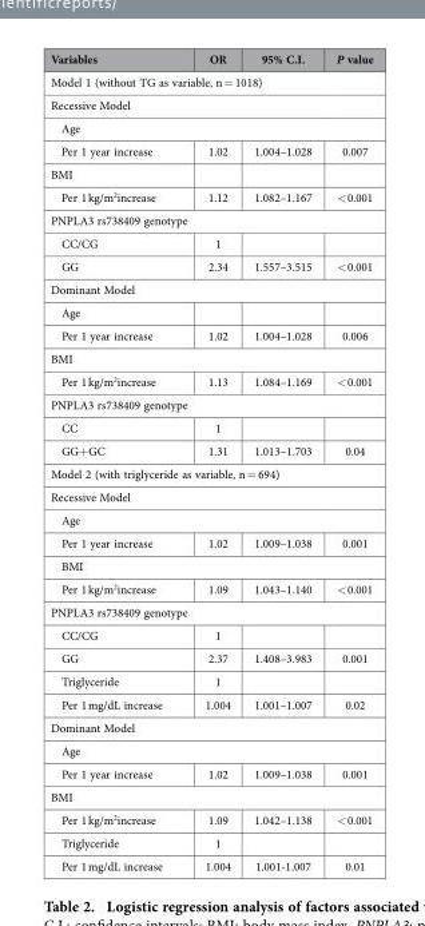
<table><thead><tr><td>Variables</td><td>OR</td><td>95% C.I.</td><td>P value</td></tr></thead><tbody><tr><td colspan="4">Model 1 (without TG as variable, n = 1018)</td></tr><tr><td colspan="4">Recessive Model</td></tr><tr><td colspan="4">Age</td></tr><tr><td>Per 1 year increase</td><td>1.02</td><td>1.004–1.028</td><td>0.007</td></tr><tr><td colspan="4">BMI</td></tr><tr><td>Per 1 kg/m<sup>2</sup>increase</td><td>1.12</td><td>1.082–1.167</td><td>&lt; 0.001</td></tr><tr><td colspan="4">PNPLA3 rs738409 genotype</td></tr><tr><td>CC/CG</td><td>1</td><td></td><td></td></tr><tr><td>GG</td><td>2.34</td><td>1.557–3.515</td><td>&lt; 0.001</td></tr><tr><td colspan="4">Dominant Model</td></tr><tr><td colspan="4">Age</td></tr><tr><td>Per 1 year increase</td><td>1.02</td><td>1.004–1.028</td><td>0.006</td></tr><tr><td colspan="4">BMI</td></tr><tr><td>Per 1 kg/m<sup>2</sup>increase</td><td>1.13</td><td>1.084–1.169</td><td>&lt; 0.001</td></tr><tr><td colspan="4">PNPLA3 rs738409 genotype</td></tr><tr><td>CC</td><td>1</td><td></td><td></td></tr><tr><td>GG+ GC</td><td>1.31</td><td>1.013–1.703</td><td>0.04</td></tr><tr><td colspan="4">Model 2 (with triglyceride as variable, n = 694)</td></tr><tr><td colspan="4">Recessive Model</td></tr><tr><td colspan="4">Age</td></tr><tr><td>Per 1 year increase</td><td>1.02</td><td>1.009–1.038</td><td>0.001</td></tr><tr><td colspan="4">BMI</td></tr><tr><td>Per 1 kg/m<sup>2</sup>increase</td><td>1.09</td><td>1.043–1.140</td><td>&lt; 0.001</td></tr><tr><td colspan="4">PNPLA3 rs738409 genotype</td></tr><tr><td>CC/CG</td><td>1</td><td></td><td></td></tr><tr><td>GG</td><td>2.37</td><td>1.408–3.983</td><td>0.001</td></tr><tr><td>Triglyceride</td><td>1</td><td></td><td></td></tr><tr><td>Per 1 mg/dL increase</td><td>1.004</td><td>1.001–1.007</td><td>0.02</td></tr><tr><td colspan="4">Dominant Model</td></tr><tr><td colspan="4">Age</td></tr><tr><td>Per 1 year increase</td><td>1.02</td><td>1.009–1.038</td><td>0.001</td></tr><tr><td colspan="4">BMI</td></tr><tr><td>Per 1 kg/m<sup>2</sup>increase</td><td>1.09</td><td>1.042–1.138</td><td>&lt; 0.001</td></tr><tr><td>Triglyceride</td><td>1</td><td></td><td></td></tr><tr><td>Per 1 mg/dL increase</td><td>1.004</td><td>1.001-1.007</td><td>0.01</td></tr></tbody></table>